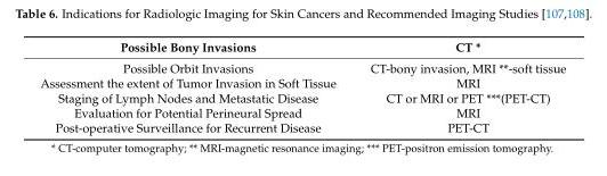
<table><thead><tr><td>Possible Bony Invasions</td><td>CT *</td></tr></thead><tbody><tr><td>Possible Orbit Invasions</td><td>CT-bony invasion, MRI **-soft tissue</td></tr><tr><td>Assessment the extent of Tumor Invasion in Soft Tissue</td><td>MRI</td></tr><tr><td>Staging of Lymph Nodes and Metastatic Disease</td><td>CT or MRI or PET ***(PET-CT)</td></tr><tr><td>Evaluation for Potential Perineural Spread</td><td>MRI</td></tr><tr><td>Post-operative Surveillance for Recurrent Disease</td><td>PET-CT</td></tr></tbody></table>